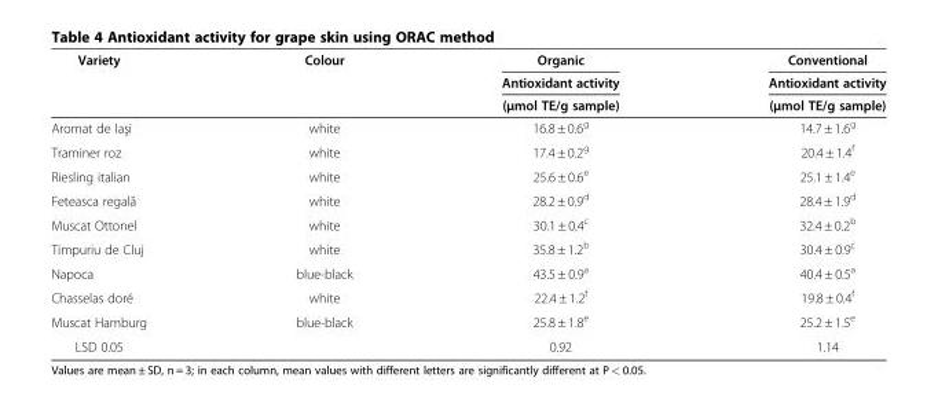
<table><thead><tr><td rowspan="3">Variety</td><td rowspan="3">Colour</td><td rowspan="3">Organic Antioxidant activity (μmol TE/g sample)</td><td rowspan="3">Conventional Antioxidant activity (μmol TE/g sample)</td></tr><tr></tr><tr></tr></thead><tbody><tr><td>Aromat de Iaşi</td><td>white</td><td>16.8 ± 0.6<sup>g</sup></td><td>14.7 ± 1.6<sup>g</sup></td></tr><tr><td>Traminer roz</td><td>white</td><td>17.4 ± 0.2<sup>g</sup></td><td>20.4 ± 1.4<sup>f</sup></td></tr><tr><td>Riesling italian</td><td>white</td><td>25.6 ± 0.6<sup>e</sup></td><td>25.1 ± 1.4<sup>e</sup></td></tr><tr><td>Feteasca regală</td><td>white</td><td>28.2 ± 0.9<sup>d</sup></td><td>28.4 ± 1.9<sup>d</sup></td></tr><tr><td>Muscat Ottonel</td><td>white</td><td>30.1 ± 0.4<sup>c</sup></td><td>32.4 ± 0.2<sup>b</sup></td></tr><tr><td>Timpuriu de Cluj</td><td>white</td><td>35.8 ± 1.2<sup>b</sup></td><td>30.4 ± 0.9<sup>c</sup></td></tr><tr><td>Napoca</td><td>blue-black</td><td>43.5 ± 0.9<sup>a</sup></td><td>40.4 ± 0.5<sup>a</sup></td></tr><tr><td>Chasselas doré</td><td>white</td><td>22.4 ± 1.2<sup>f</sup></td><td>19.8 ± 0.4<sup>f</sup></td></tr><tr><td>Muscat Hamburg</td><td>blue-black</td><td>25.8 ± 1.8<sup>e</sup></td><td>25.2 ± 1.5<sup>e</sup></td></tr><tr><td>LSD 0.05</td><td></td><td>0.92</td><td>1.14</td></tr></tbody></table>